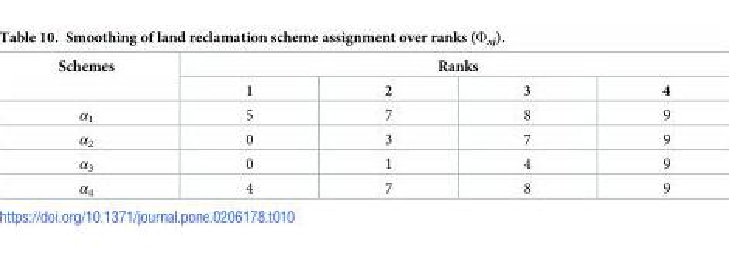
<table><thead><tr><td rowspan="2">Schemes</td><td colspan="4">Ranks</td></tr><tr><td>1</td><td>2</td><td>3</td><td>4</td></tr></thead><tbody><tr><td>α<sub>1</sub></td><td>5</td><td>7</td><td>8</td><td>9</td></tr><tr><td>α<sub>2</sub></td><td>0</td><td>3</td><td>7</td><td>9</td></tr><tr><td>α<sub>3</sub></td><td>0</td><td>1</td><td>4</td><td>9</td></tr><tr><td>α<sub>4</sub></td><td>4</td><td>7</td><td>8</td><td>9</td></tr></tbody></table>